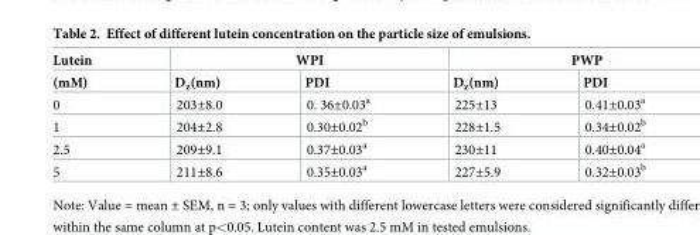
<table><thead><tr><td rowspan="2">Lutein (mM)</td><td colspan="2">WPI</td><td colspan="2">PWP</td></tr><tr><td>D<sub>z</sub>(nm)</td><td>PDI</td><td>D<sub>z</sub>(nm)</td><td>PDI</td></tr></thead><tbody><tr><td>0</td><td>203±8.0</td><td>0. 36±0.03<sup>a</sup></td><td>225±13</td><td>0.41±0.03<sup>a</sup></td></tr><tr><td>1</td><td>204±2.8</td><td>0.30±0.02<sup>b</sup></td><td>228±1.5</td><td>0.34±0.02<sup>b</sup></td></tr><tr><td>2.5</td><td>209±9.1</td><td>0.37±0.03<sup>a</sup></td><td>230±11</td><td>0.40±0.04<sup>a</sup></td></tr><tr><td>5</td><td>211±8.6</td><td>0.35±0.03<sup>a</sup></td><td>227±5.9</td><td>0.32±0.03<sup>b</sup></td></tr></tbody></table>